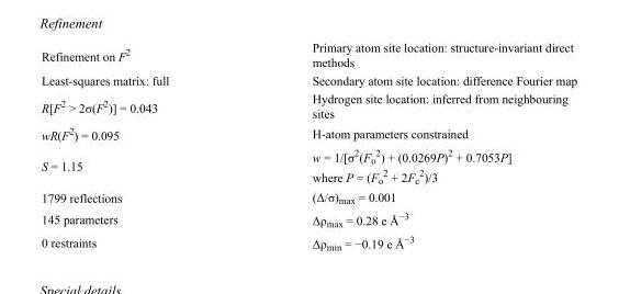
<table><tbody><tr><td>Refinement on F<sup>2</sup></td><td>Primary atom site location: structure-invariant direct methods</td></tr><tr><td>Least-squares matrix: full</td><td>Secondary atom site location: difference Fourier map</td></tr><tr><td>R[F<sup>2</sup> &gt; 2σ(F<sup>2</sup>)] = 0.043</td><td>Hydrogen site location: inferred from neighbouring sites</td></tr><tr><td>wR(F<sup>2</sup>) = 0.095</td><td>H-atom parameters constrained</td></tr><tr><td>S = 1.15</td><td>w = 1/[σ<sup>2</sup>(F<sub>o</sub> <sup>2</sup>) + (0.0269P)<sup>2</sup> + 0.7053P] where P = (F<sub>o</sub> <sup>2</sup> + 2F<sub>c</sub> <sup>2</sup>)/3</td></tr><tr><td>1799 reflections</td><td>(Δ/σ)<sub>max</sub> = 0.001</td></tr><tr><td>145 parameters</td><td>Δρ<sub>max</sub> = 0.28 e Å<sup>−3</sup></td></tr><tr><td>0 restraints</td><td>Δρ<sub>min</sub> = −0.19 e Å<sup>−3</sup></td></tr></tbody></table>